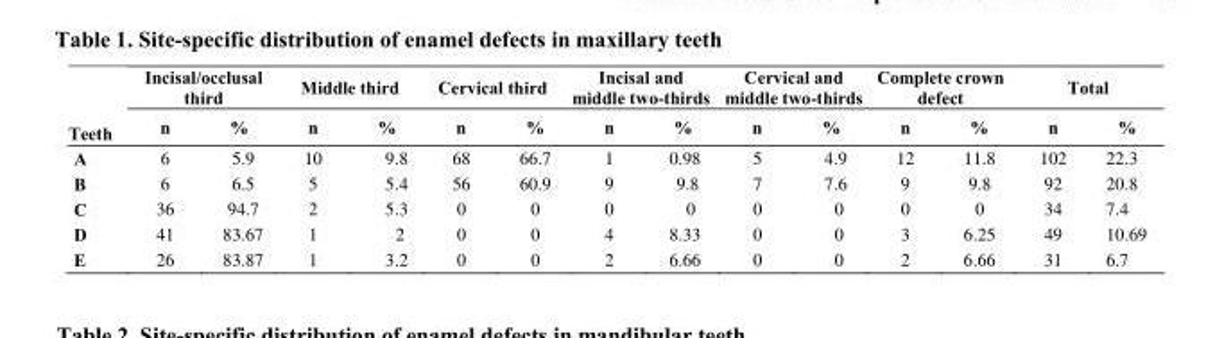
<table><thead><tr><td rowspan="2">Teeth</td><td colspan="2">Incisal/occlusal third</td><td colspan="2">Middle third</td><td colspan="2">Cervical third</td><td colspan="2">Incisal and middle two-thirds</td><td colspan="2">Cervical and middle two-thirds</td><td colspan="2">Complete crown defect</td><td colspan="2">Total</td></tr><tr><td>n</td><td>%</td><td>n</td><td>%</td><td>n</td><td>%</td><td>n</td><td>%</td><td>n</td><td>%</td><td>n</td><td>%</td><td>n</td><td>%</td></tr></thead><tbody><tr><td>A</td><td>6</td><td>5.9</td><td>10</td><td>9.8</td><td>68</td><td>66.7</td><td>1</td><td>0.98</td><td>5</td><td>4.9</td><td>12</td><td>11.8</td><td>102</td><td>22.3</td></tr><tr><td>B</td><td>6</td><td>6.5</td><td>5</td><td>5.4</td><td>56</td><td>60.9</td><td>9</td><td>9.8</td><td>7</td><td>7.6</td><td>9</td><td>9.8</td><td>92</td><td>20.8</td></tr><tr><td>C</td><td>36</td><td>94.7</td><td>2</td><td>5.3</td><td>0</td><td>0</td><td>0</td><td>0</td><td>0</td><td>0</td><td>0</td><td>0</td><td>34</td><td>7.4</td></tr><tr><td>D</td><td>41</td><td>83.67</td><td>1</td><td>2</td><td>0</td><td>0</td><td>4</td><td>8.33</td><td>0</td><td>0</td><td>3</td><td>6.25</td><td>49</td><td>10.69</td></tr><tr><td>E</td><td>26</td><td>83.87</td><td>1</td><td>3.2</td><td>0</td><td>0</td><td>2</td><td>6.66</td><td>0</td><td>0</td><td>2</td><td>6.66</td><td>31</td><td>6.7</td></tr></tbody></table>